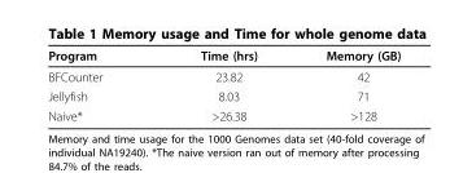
<table><thead><tr><td>Program</td><td>Time (hrs)</td><td>Memory (GB)</td></tr></thead><tbody><tr><td>BFCounter</td><td>23.82</td><td>42</td></tr><tr><td>Jellyfish</td><td>8.03</td><td>71</td></tr><tr><td>Naive*</td><td>&gt;26.38</td><td>&gt;128</td></tr></tbody></table>